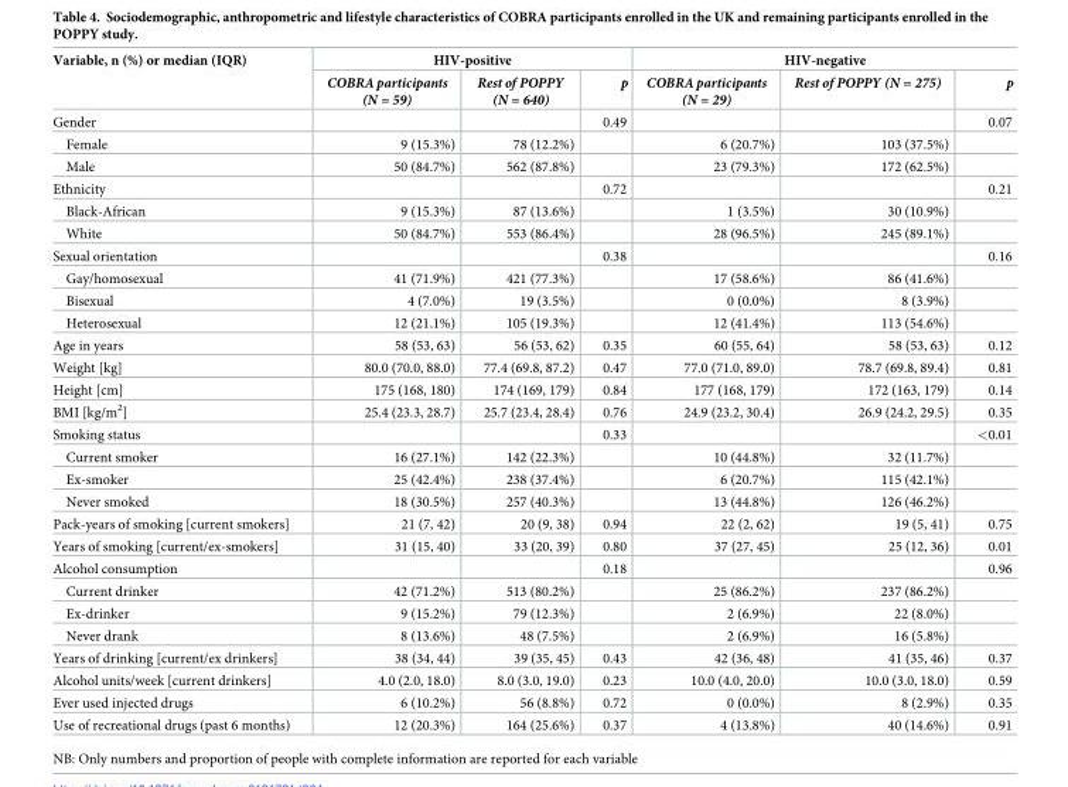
<table><thead><tr><td rowspan="2">Variable, n (%) or median (IQR)</td><td colspan="3">HIV-positive</td><td colspan="3">HIV-negative</td></tr><tr><td>COBRA participants (N = 59)</td><td>Rest of POPPY (N = 640)</td><td>p</td><td>COBRA participants (N = 29)</td><td>Rest of POPPY (N = 275)</td><td>p</td></tr></thead><tbody><tr><td>Gender</td><td></td><td></td><td>0.49</td><td></td><td></td><td>0.07</td></tr><tr><td>Female</td><td>9 (15.3%)</td><td>78 (12.2%)</td><td></td><td>6 (20.7%)</td><td>103 (37.5%)</td><td></td></tr><tr><td>Male</td><td>50 (84.7%)</td><td>562 (87.8%)</td><td></td><td>23 (79.3%)</td><td>172 (62.5%)</td><td></td></tr><tr><td>Ethnicity</td><td></td><td></td><td>0.72</td><td></td><td></td><td>0.21</td></tr><tr><td>Black-African</td><td>9 (15.3%)</td><td>87 (13.6%)</td><td></td><td>1 (3.5%)</td><td>30 (10.9%)</td><td></td></tr><tr><td>White</td><td>50 (84.7%)</td><td>553 (86.4%)</td><td></td><td>28 (96.5%)</td><td>245 (89.1%)</td><td></td></tr><tr><td>Sexual orientation</td><td></td><td></td><td>0.38</td><td></td><td></td><td>0.16</td></tr><tr><td>Gay/homosexual</td><td>41 (71.9%)</td><td>421 (77.3%)</td><td></td><td>17 (58.6%)</td><td>86 (41.6%)</td><td></td></tr><tr><td>Bisexual</td><td>4 (7.0%)</td><td>19 (3.5%)</td><td></td><td>0 (0.0%)</td><td>8 (3.9%)</td><td></td></tr><tr><td>Heterosexual</td><td>12 (21.1%)</td><td>105 (19.3%)</td><td></td><td>12 (41.4%)</td><td>113 (54.6%)</td><td></td></tr><tr><td>Age in years</td><td>58 (53, 63)</td><td>56 (53, 62)</td><td>0.35</td><td>60 (55, 64)</td><td>58 (53, 63)</td><td>0.12</td></tr><tr><td>Weight [kg]</td><td>80.0 (70.0, 88.0)</td><td>77.4 (69.8, 87.2)</td><td>0.47</td><td>77.0 (71.0, 89.0)</td><td>78.7 (69.8, 89.4)</td><td>0.81</td></tr><tr><td>Height [cm]</td><td>175 (168, 180)</td><td>174 (169, 179)</td><td>0.84</td><td>177 (168, 179)</td><td>172 (163, 179)</td><td>0.14</td></tr><tr><td>BMI [kg/m<sup>2</sup>]</td><td>25.4 (23.3, 28.7)</td><td>25.7 (23.4, 28.4)</td><td>0.76</td><td>24.9 (23.2, 30.4)</td><td>26.9 (24.2, 29.5)</td><td>0.35</td></tr><tr><td>Smoking status</td><td></td><td></td><td>0.33</td><td></td><td></td><td>&lt;0.01</td></tr><tr><td>Current smoker</td><td>16 (27.1%)</td><td>142 (22.3%)</td><td></td><td>10 (44.8%)</td><td>32 (11.7%)</td><td></td></tr><tr><td>Ex-smoker</td><td>25 (42.4%)</td><td>238 (37.4%)</td><td></td><td>6 (20.7%)</td><td>115 (42.1%)</td><td></td></tr><tr><td>Never smoked</td><td>18 (30.5%)</td><td>257 (40.3%)</td><td></td><td>13 (44.8%)</td><td>126 (46.2%)</td><td></td></tr><tr><td>Pack-years of smoking [current smokers]</td><td>21 (7, 42)</td><td>20 (9, 38)</td><td>0.94</td><td>22 (2, 62)</td><td>19 (5, 41)</td><td>0.75</td></tr><tr><td>Years of smoking [current/ex-smokers]</td><td>31 (15, 40)</td><td>33 (20, 39)</td><td>0.80</td><td>37 (27, 45)</td><td>25 (12, 36)</td><td>0.01</td></tr><tr><td>Alcohol consumption</td><td></td><td></td><td>0.18</td><td></td><td></td><td>0.96</td></tr><tr><td>Current drinker</td><td>42 (71.2%)</td><td>513 (80.2%)</td><td></td><td>25 (86.2%)</td><td>237 (86.2%)</td><td></td></tr><tr><td>Ex-drinker</td><td>9 (15.2%)</td><td>79 (12.3%)</td><td></td><td>2 (6.9%)</td><td>22 (8.0%)</td><td></td></tr><tr><td>Never drank</td><td>8 (13.6%)</td><td>48 (7.5%)</td><td></td><td>2 (6.9%)</td><td>16 (5.8%)</td><td></td></tr><tr><td>Years of drinking [current/ex drinkers]</td><td>38 (34, 44)</td><td>39 (35, 45)</td><td>0.43</td><td>42 (36, 48)</td><td>41 (35, 46)</td><td>0.37</td></tr><tr><td>Alcohol units/week [current drinkers]</td><td>4.0 (2.0, 18.0)</td><td>8.0 (3.0, 19.0)</td><td>0.23</td><td>10.0 (4.0, 20.0)</td><td>10.0 (3.0, 18.0)</td><td>0.59</td></tr><tr><td>Ever used injected drugs</td><td>6 (10.2%)</td><td>56 (8.8%)</td><td>0.72</td><td>0 (0.0%)</td><td>8 (2.9%)</td><td>0.35</td></tr><tr><td>Use of recreational drugs (past 6 months)</td><td>12 (20.3%)</td><td>164 (25.6%)</td><td>0.37</td><td>4 (13.8%)</td><td>40 (14.6%)</td><td>0.91</td></tr></tbody></table>